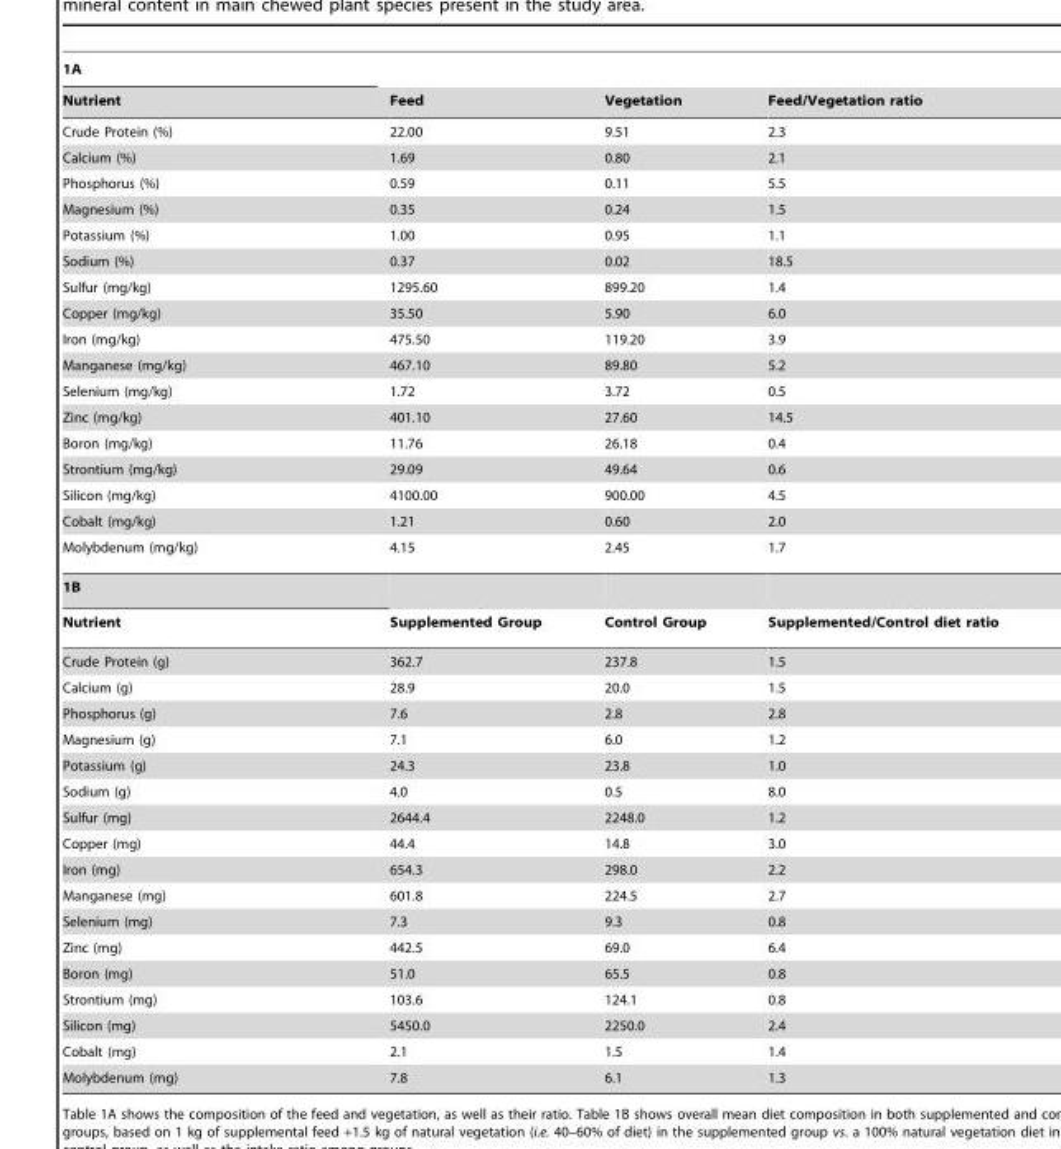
<table><thead><tr><td rowspan="2">1A Nutrient</td><td rowspan="2">Feed</td><td rowspan="2">Vegetation</td><td rowspan="2">Feed/Vegetation ratio</td></tr><tr></tr></thead><tbody><tr><td>Crude Protein (%)</td><td>22.00</td><td>9.51</td><td>2.3</td></tr><tr><td>Calcium (%)</td><td>1.69</td><td>0.80</td><td>2.1</td></tr><tr><td>Phosphorus (%)</td><td>0.59</td><td>0.11</td><td>5.5</td></tr><tr><td>Magnesium (%)</td><td>0.35</td><td>0.24</td><td>1.5</td></tr><tr><td>Potassium (%)</td><td>1.00</td><td>0.95</td><td>1.1</td></tr><tr><td>Sodium (%)</td><td>0.37</td><td>0.02</td><td>18.5</td></tr><tr><td>Sulfur (mg/kg)</td><td>1295.60</td><td>899.20</td><td>1.4</td></tr><tr><td>Copper (mg/kg)</td><td>35.50</td><td>5.90</td><td>6.0</td></tr><tr><td>Iron (mg/kg)</td><td>475.50</td><td>119.20</td><td>3.9</td></tr><tr><td>Manganese (mg/kg)</td><td>467.10</td><td>89.80</td><td>5.2</td></tr><tr><td>Selenium (mg/kg)</td><td>1.72</td><td>3.72</td><td>0.5</td></tr><tr><td>Zinc (mg/kg)</td><td>401.10</td><td>27.60</td><td>14.5</td></tr><tr><td>Boron (mg/kg)</td><td>11.76</td><td>26.18</td><td>0.4</td></tr><tr><td>Strontium (mg/kg)</td><td>29.09</td><td>49.64</td><td>0.6</td></tr><tr><td>Silicon (mg/kg)</td><td>4100.00</td><td>900.00</td><td>4.5</td></tr><tr><td>Cobalt (mg/kg)</td><td>1.21</td><td>0.60</td><td>2.0</td></tr><tr><td>Molybdenum (mg/kg)</td><td>4.15</td><td>2.45</td><td>1.7</td></tr><tr><td colspan="4">1B</td></tr><tr><td>Nutrient</td><td>Supplemented Group</td><td>Control Group</td><td>Supplemented/Control diet ratio</td></tr><tr><td>Crude Protein (g)</td><td>362.7</td><td>237.8</td><td>1.5</td></tr><tr><td>Calcium (g)</td><td>28.9</td><td>20.0</td><td>1.5</td></tr><tr><td>Phosphorus (g)</td><td>7.6</td><td>2.8</td><td>2.8</td></tr><tr><td>Magnesium (g)</td><td>7.1</td><td>6.0</td><td>1.2</td></tr><tr><td>Potassium (g)</td><td>24.3</td><td>23.8</td><td>1.0</td></tr><tr><td>Sodium (g)</td><td>4.0</td><td>0.5</td><td>8.0</td></tr><tr><td>Sulfur (mg)</td><td>2644.4</td><td>2248.0</td><td>1.2</td></tr><tr><td>Copper (mg)</td><td>44.4</td><td>14.8</td><td>3.0</td></tr><tr><td>Iron (mg)</td><td>654.3</td><td>298.0</td><td>2.2</td></tr><tr><td>Manganese (mg)</td><td>601.8</td><td>224.5</td><td>2.7</td></tr><tr><td>Selenium (mg)</td><td>7.3</td><td>9.3</td><td>0.8</td></tr><tr><td>Zinc (mg)</td><td>442.5</td><td>69.0</td><td>6.4</td></tr><tr><td>Boron (mg)</td><td>51.0</td><td>65.5</td><td>0.8</td></tr><tr><td>Strontium (mg)</td><td>103.6</td><td>124.1</td><td>0.8</td></tr><tr><td>Silicon (mg)</td><td>5450.0</td><td>2250.0</td><td>2.4</td></tr><tr><td>Cobalt (mg)</td><td>2.1</td><td>1.5</td><td>1.4</td></tr><tr><td>Molybdenum (mg)</td><td>7.8</td><td>6.1</td><td>1.3</td></tr></tbody></table>